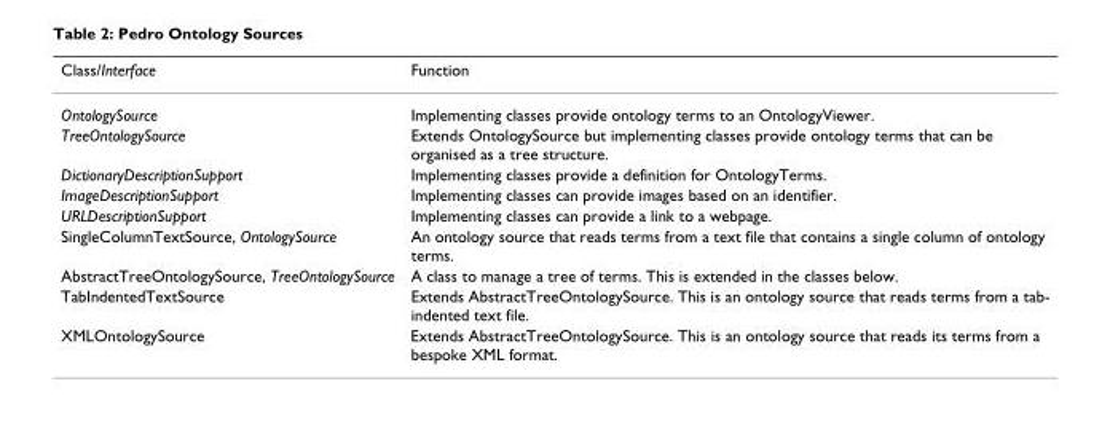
<table><thead><tr><td>Class/Interface</td><td>Function</td></tr></thead><tbody><tr><td>OntologySource</td><td>Implementing classes provide ontology terms to an OntologyViewer.</td></tr><tr><td>TreeOntologySource</td><td>Extends OntologySource but implementing classes provide ontology terms that can be organised as a tree structure.</td></tr><tr><td>DictionaryDescriptionSupport</td><td>Implementing classes provide a definition for OntologyTerms.</td></tr><tr><td>ImageDescriptionSupport</td><td>Implementing classes can provide images based on an identifier.</td></tr><tr><td>URLDescriptionSupport</td><td>Implementing classes can provide a link to a webpage.</td></tr><tr><td>SingleColumnTextSource, OntologySource</td><td>An ontology source that reads terms from a text file that contains a single column of ontology terms.</td></tr><tr><td>AbstractTreeOntologySource, TreeOntologySource</td><td>A class to manage a tree of terms. This is extended in the classes below.</td></tr><tr><td>TabIndentedTextSource</td><td>Extends AbstractTreeOntologySource. This is an ontology source that reads terms from a tab- indented text file.</td></tr><tr><td>XMLOntologySource</td><td>Extends AbstractTreeOntologySource. This is an ontology source that reads its terms from a bespoke XML format.</td></tr></tbody></table>